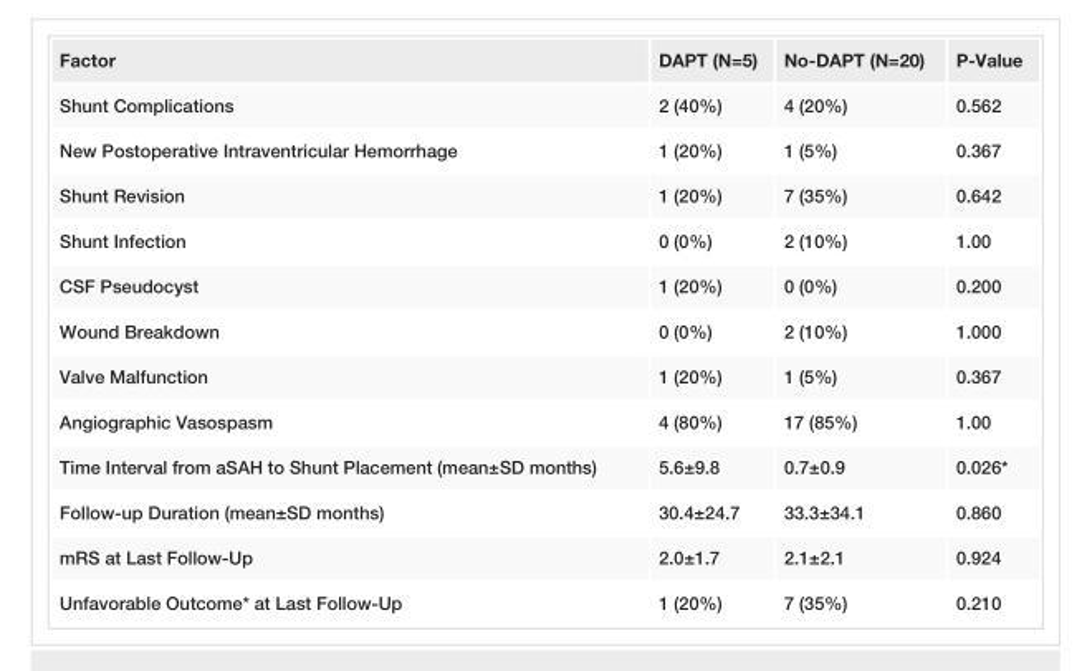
<table><tbody><tr><td>Factor</td><td>DAPT (N=5)</td><td>No-DAPT (N=20)</td><td>P-Value</td></tr><tr><td>Shunt Complications</td><td>2 (40%)</td><td>4 (20%)</td><td>0.562</td></tr><tr><td>New Postoperative Intraventricular Hemorrhage</td><td>1 (20%)</td><td>1 (5%)</td><td>0.367</td></tr><tr><td>Shunt Revision</td><td>1 (20%)</td><td>7 (35%)</td><td>0.642</td></tr><tr><td>Shunt Infection</td><td>0 (0%)</td><td>2 (10%)</td><td>1.00</td></tr><tr><td>CSF Pseudocyst</td><td>1 (20%)</td><td>0 (0%)</td><td>0.200</td></tr><tr><td>Wound Breakdown</td><td>0 (0%)</td><td>2 (10%)</td><td>1.000</td></tr><tr><td>Valve Malfunction</td><td>1 (20%)</td><td>1 (5%)</td><td>0.367</td></tr><tr><td>Angiographic Vasospasm</td><td>4 (80%)</td><td>17 (85%)</td><td>1.00</td></tr><tr><td>Time Interval from aSAH to Shunt Placement (mean±SD months)</td><td>5.6±9.8</td><td>0.7±0.9</td><td>0.026*</td></tr><tr><td>Follow-up Duration (mean±SD months)</td><td>30.4±24.7</td><td>33.3±34.1</td><td>0.860</td></tr><tr><td>mRS at Last Follow-Up</td><td>2.0±1.7</td><td>2.1±2.1</td><td>0.924</td></tr><tr><td>Unfavorable Outcome* at Last Follow-Up</td><td>1 (20%)</td><td>7 (35%)</td><td>0.210</td></tr></tbody></table>